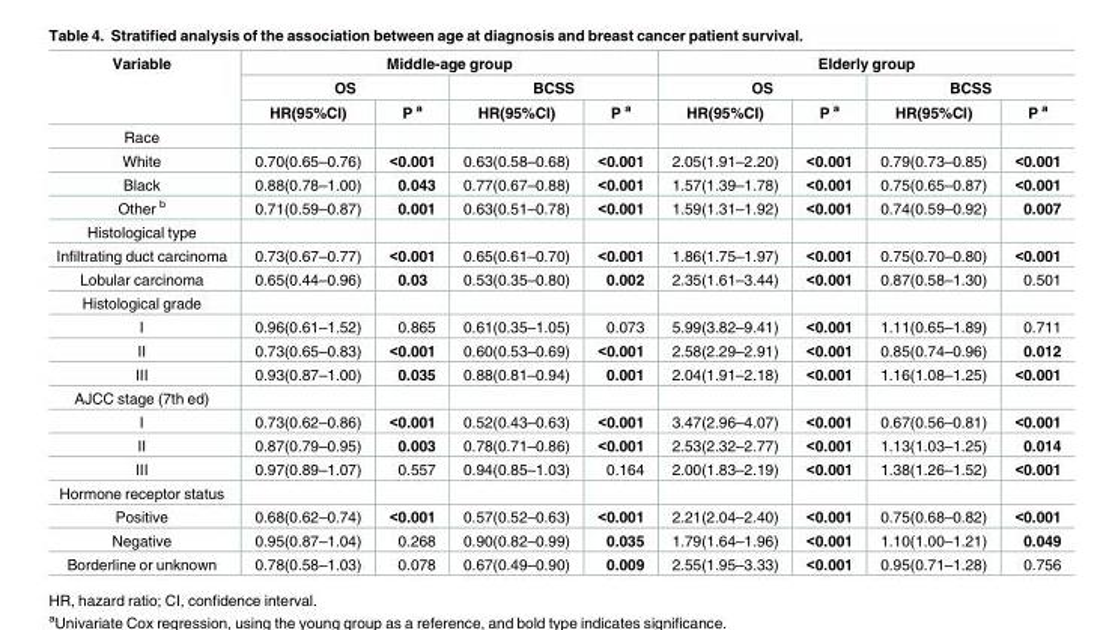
<table><thead><tr><td rowspan="3">Variable</td><td colspan="4">Middle-age group</td><td colspan="4">Elderly group</td></tr><tr><td colspan="2">OS</td><td colspan="2">BCSS</td><td colspan="2">OS</td><td colspan="2">BCSS</td></tr><tr><td>HR(95%CI)</td><td>P <sup>a</sup></td><td>HR(95%CI)</td><td>P <sup>a</sup></td><td>HR(95%CI)</td><td>P <sup>a</sup></td><td>HR(95%CI)</td><td>P <sup>a</sup></td></tr></thead><tbody><tr><td colspan="9">Race</td></tr><tr><td>White</td><td>0.70(0.65–0.76)</td><td>&lt;0.001</td><td>0.63(0.58–0.68)</td><td>&lt;0.001</td><td>2.05(1.91–2.20)</td><td>&lt;0.001</td><td>0.79(0.73–0.85)</td><td>&lt;0.001</td></tr><tr><td>Black</td><td>0.88(0.78–1.00)</td><td>0.043</td><td>0.77(0.67–0.88)</td><td>&lt;0.001</td><td>1.57(1.39–1.78)</td><td>&lt;0.001</td><td>0.75(0.65–0.87)</td><td>&lt;0.001</td></tr><tr><td>Other <sup>b</sup></td><td>0.71(0.59–0.87)</td><td>0.001</td><td>0.63(0.51–0.78)</td><td>&lt;0.001</td><td>1.59(1.31–1.92)</td><td>&lt;0.001</td><td>0.74(0.59–0.92)</td><td>0.007</td></tr><tr><td colspan="9">Histological type</td></tr><tr><td>Infiltrating duct carcinoma</td><td>0.73(0.67–0.77)</td><td>&lt;0.001</td><td>0.65(0.61–0.70)</td><td>&lt;0.001</td><td>1.86(1.75–1.97)</td><td>&lt;0.001</td><td>0.75(0.70–0.80)</td><td>&lt;0.001</td></tr><tr><td>Lobular carcinoma</td><td>0.65(0.44–0.96)</td><td>0.03</td><td>0.53(0.35–0.80)</td><td>0.002</td><td>2.35(1.61–3.44)</td><td>&lt;0.001</td><td>0.87(0.58–1.30)</td><td>0.501</td></tr><tr><td colspan="9">Histological grade</td></tr><tr><td>I</td><td>0.96(0.61–1.52)</td><td>0.865</td><td>0.61(0.35–1.05)</td><td>0.073</td><td>5.99(3.82–9.41)</td><td>&lt;0.001</td><td>1.11(0.65–1.89)</td><td>0.711</td></tr><tr><td>II</td><td>0.73(0.65–0.83)</td><td>&lt;0.001</td><td>0.60(0.53–0.69)</td><td>&lt;0.001</td><td>2.58(2.29–2.91)</td><td>&lt;0.001</td><td>0.85(0.74–0.96)</td><td>0.012</td></tr><tr><td>III</td><td>0.93(0.87–1.00)</td><td>0.035</td><td>0.88(0.81–0.94)</td><td>0.001</td><td>2.04(1.91–2.18)</td><td>&lt;0.001</td><td>1.16(1.08–1.25)</td><td>&lt;0.001</td></tr><tr><td colspan="9">AJCC stage (7th ed)</td></tr><tr><td>I</td><td>0.73(0.62–0.86)</td><td>&lt;0.001</td><td>0.52(0.43–0.63)</td><td>&lt;0.001</td><td>3.47(2.96–4.07)</td><td>&lt;0.001</td><td>0.67(0.56–0.81)</td><td>&lt;0.001</td></tr><tr><td>II</td><td>0.87(0.79–0.95)</td><td>0.003</td><td>0.78(0.71–0.86)</td><td>&lt;0.001</td><td>2.53(2.32–2.77)</td><td>&lt;0.001</td><td>1.13(1.03–1.25)</td><td>0.014</td></tr><tr><td>III</td><td>0.97(0.89–1.07)</td><td>0.557</td><td>0.94(0.85–1.03)</td><td>0.164</td><td>2.00(1.83–2.19)</td><td>&lt;0.001</td><td>1.38(1.26–1.52)</td><td>&lt;0.001</td></tr><tr><td colspan="9">Hormone receptor status</td></tr><tr><td>Positive</td><td>0.68(0.62–0.74)</td><td>&lt;0.001</td><td>0.57(0.52–0.63)</td><td>&lt;0.001</td><td>2.21(2.04–2.40)</td><td>&lt;0.001</td><td>0.75(0.68–0.82)</td><td>&lt;0.001</td></tr><tr><td>Negative</td><td>0.95(0.87–1.04)</td><td>0.268</td><td>0.90(0.82–0.99)</td><td>0.035</td><td>1.79(1.64–1.96)</td><td>&lt;0.001</td><td>1.10(1.00–1.21)</td><td>0.049</td></tr><tr><td>Borderline or unknown</td><td>0.78(0.58–1.03)</td><td>0.078</td><td>0.67(0.49–0.90)</td><td>0.009</td><td>2.55(1.95–3.33)</td><td>&lt;0.001</td><td>0.95(0.71–1.28)</td><td>0.756</td></tr></tbody></table>